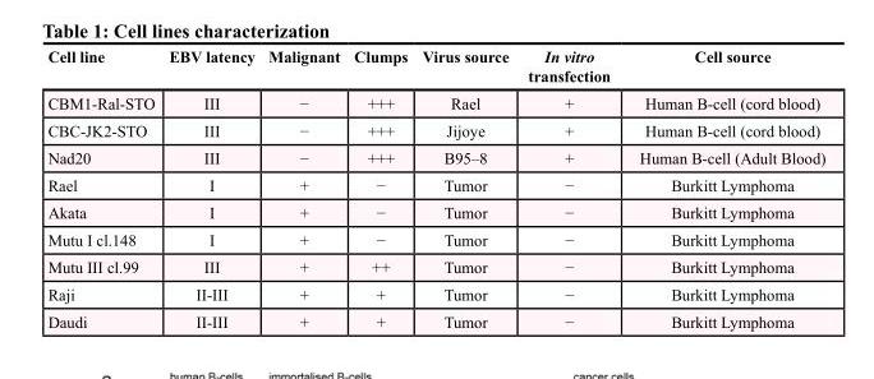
<table><thead><tr><td>Cell line</td><td>EBV latency</td><td>Malignant</td><td>Clumps</td><td>Virus source</td><td>In vitro transfection</td><td>Cell source</td></tr></thead><tbody><tr><td>CBM1-Ral-STO</td><td>III</td><td>−</td><td>+++</td><td>Rael</td><td>+</td><td>Human B-cell (cord blood)</td></tr><tr><td>CBC-JK2-STO</td><td>III</td><td>−</td><td>+++</td><td>Jijoye</td><td>+</td><td>Human B-cell (cord blood)</td></tr><tr><td>Nad20</td><td>III</td><td>−</td><td>+++</td><td>B95–8</td><td>+</td><td>Human B-cell (Adult Blood)</td></tr><tr><td>Rael</td><td>I</td><td>+</td><td>−</td><td>Tumor</td><td>−</td><td>Burkitt Lymphoma</td></tr><tr><td>Akata</td><td>I</td><td>+</td><td>−</td><td>Tumor</td><td>−</td><td>Burkitt Lymphoma</td></tr><tr><td>Mutu I cl.148</td><td>I</td><td>+</td><td>−</td><td>Tumor</td><td>−</td><td>Burkitt Lymphoma</td></tr><tr><td>Mutu III cl.99</td><td>III</td><td>+</td><td>++</td><td>Tumor</td><td>−</td><td>Burkitt Lymphoma</td></tr><tr><td>Raji</td><td>II-III</td><td>+</td><td>+</td><td>Tumor</td><td>−</td><td>Burkitt Lymphoma</td></tr><tr><td>Daudi</td><td>II-III</td><td>+</td><td>+</td><td>Tumor</td><td>−</td><td>Burkitt Lymphoma</td></tr></tbody></table>